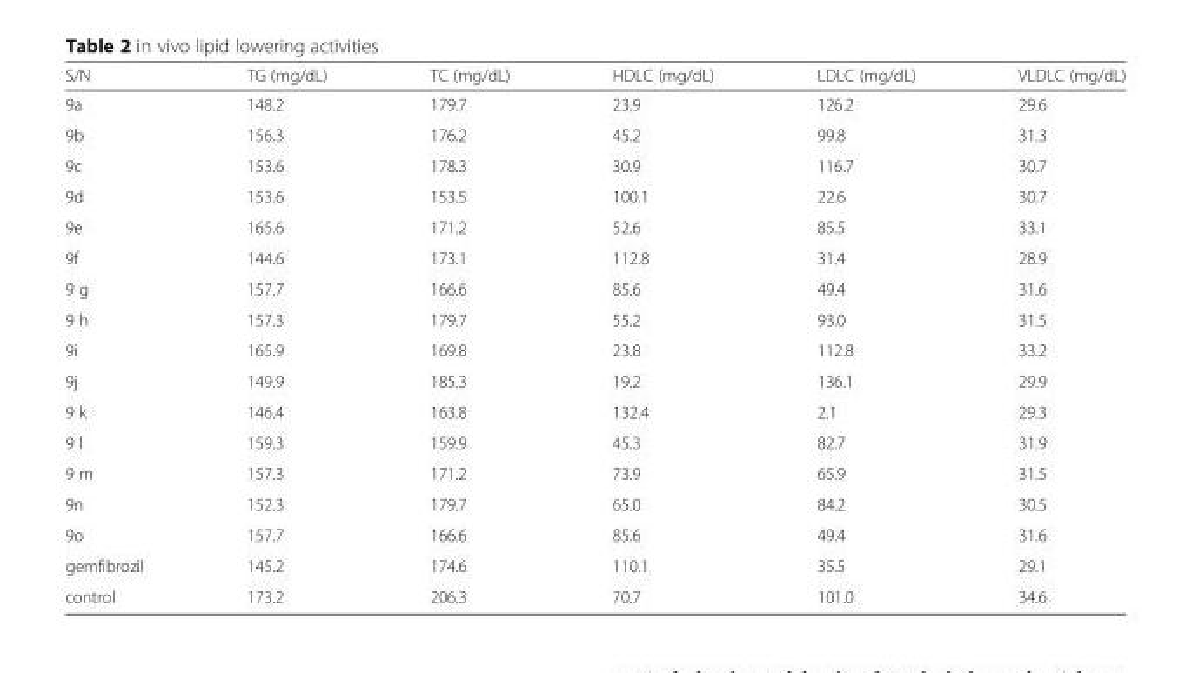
<table><thead><tr><td>S/N</td><td>TG (mg/dL)</td><td>TC (mg/dL)</td><td>HDLC (mg/dL)</td><td>LDLC (mg/dL)</td><td>VLDLC (mg/dL)</td></tr></thead><tbody><tr><td>9a</td><td>148.2</td><td>179.7</td><td>23.9</td><td>126.2</td><td>29.6</td></tr><tr><td>9b</td><td>156.3</td><td>176.2</td><td>45.2</td><td>99.8</td><td>31.3</td></tr><tr><td>9c</td><td>153.6</td><td>178.3</td><td>30.9</td><td>116.7</td><td>30.7</td></tr><tr><td>9d</td><td>153.6</td><td>153.5</td><td>100.1</td><td>22.6</td><td>30.7</td></tr><tr><td>9e</td><td>165.6</td><td>171.2</td><td>52.6</td><td>85.5</td><td>33.1</td></tr><tr><td>9f</td><td>144.6</td><td>173.1</td><td>112.8</td><td>31.4</td><td>28.9</td></tr><tr><td>9 g</td><td>157.7</td><td>166.6</td><td>85.6</td><td>49.4</td><td>31.6</td></tr><tr><td>9 h</td><td>157.3</td><td>179.7</td><td>55.2</td><td>93.0</td><td>31.5</td></tr><tr><td>9i</td><td>165.9</td><td>169.8</td><td>23.8</td><td>112.8</td><td>33.2</td></tr><tr><td>9j</td><td>149.9</td><td>185.3</td><td>19.2</td><td>136.1</td><td>29.9</td></tr><tr><td>9 k</td><td>146.4</td><td>163.8</td><td>132.4</td><td>2.1</td><td>29.3</td></tr><tr><td>9 l</td><td>159.3</td><td>159.9</td><td>45.3</td><td>82.7</td><td>31.9</td></tr><tr><td>9 m</td><td>157.3</td><td>171.2</td><td>73.9</td><td>65.9</td><td>31.5</td></tr><tr><td>9n</td><td>152.3</td><td>179.7</td><td>65.0</td><td>84.2</td><td>30.5</td></tr><tr><td>9o</td><td>157.7</td><td>166.6</td><td>85.6</td><td>49.4</td><td>31.6</td></tr><tr><td>gemfibrozil</td><td>145.2</td><td>174.6</td><td>110.1</td><td>35.5</td><td>29.1</td></tr><tr><td>control</td><td>173.2</td><td>206.3</td><td>70.7</td><td>101.0</td><td>34.6</td></tr></tbody></table>